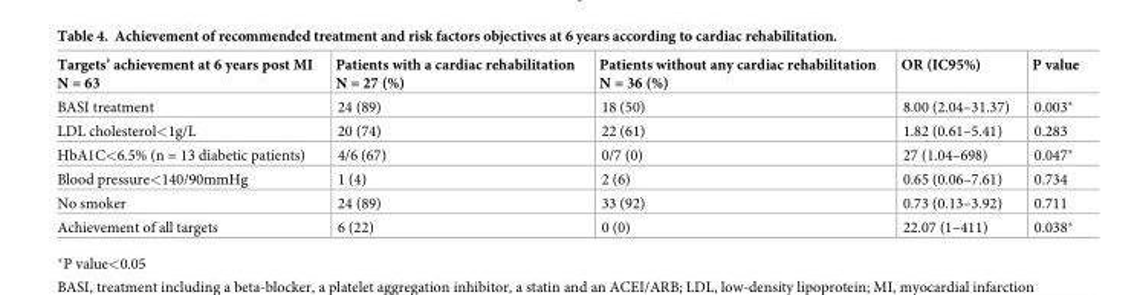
<table><thead><tr><td>Targets’ achievement at 6 years post MI N = 63</td><td>Patients with a cardiac rehabilitation N = 27 (%)</td><td>Patients without any cardiac rehabilitation N = 36 (%)</td><td>OR (IC95%)</td><td>P value</td></tr></thead><tbody><tr><td>BASI treatment</td><td>24 (89)</td><td>18 (50)</td><td>8.00 (2.04–31.37)</td><td>0.003*</td></tr><tr><td>LDL cholesterol&lt;1g/L</td><td>20 (74)</td><td>22 (61)</td><td>1.82 (0.61–5.41)</td><td>0.283</td></tr><tr><td>HbA1C&lt;6.5% (n = 13 diabetic patients)</td><td>4/6 (67)</td><td>0/7 (0)</td><td>27 (1.04–698)</td><td>0.047*</td></tr><tr><td>Blood pressure&lt;140/90mmHg</td><td>1 (4)</td><td>2 (6)</td><td>0.65 (0.06–7.61)</td><td>0.734</td></tr><tr><td>No smoker</td><td>24 (89)</td><td>33 (92)</td><td>0.73 (0.13–3.92)</td><td>0.711</td></tr><tr><td>Achievement of all targets</td><td>6 (22)</td><td>0 (0)</td><td>22.07 (1–411)</td><td>0.038*</td></tr></tbody></table>